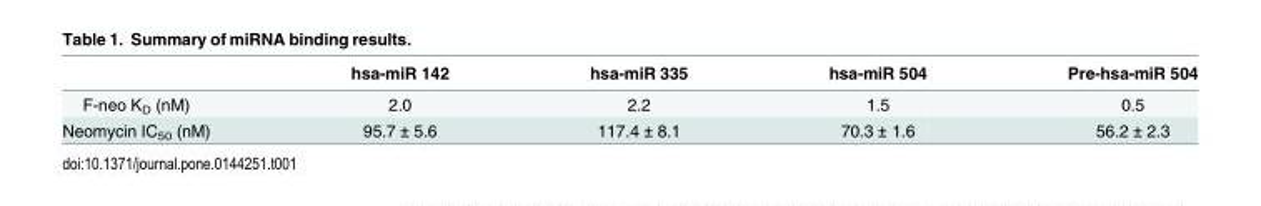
<table><thead><tr><td></td><td>hsa-miR 142</td><td>hsa-miR 335</td><td>hsa-miR 504</td><td>Pre-hsa-miR 504</td></tr></thead><tbody><tr><td>F-neo K<sub>D</sub> (nM)</td><td>2.0</td><td>2.2</td><td>1.5</td><td>0.5</td></tr><tr><td>Neomycin IC<sub>50</sub> (nM)</td><td>95.7 ± 5.6</td><td>117.4 ± 8.1</td><td>70.3 ± 1.6</td><td>56.2 ± 2.3</td></tr></tbody></table>